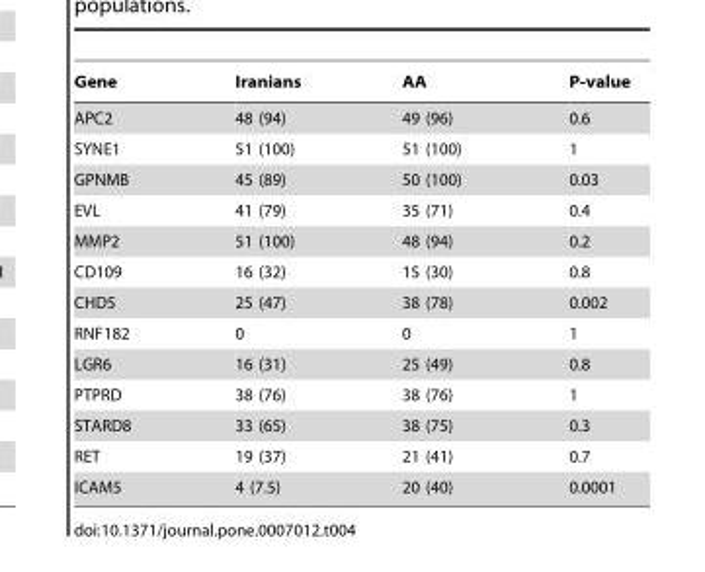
<table><thead><tr><td>Gene</td><td>Iranians</td><td>AA</td><td>P-value</td></tr></thead><tbody><tr><td>APC2</td><td>48 (94)</td><td>49 (96)</td><td>0.6</td></tr><tr><td>SYNE1</td><td>51 (100)</td><td>51 (100)</td><td>1</td></tr><tr><td>GPNMB</td><td>45 (89)</td><td>50 (100)</td><td>0.03</td></tr><tr><td>EVL</td><td>41 (79)</td><td>35 (71)</td><td>0.4</td></tr><tr><td>MMP2</td><td>51 (100)</td><td>48 (94)</td><td>0.2</td></tr><tr><td>CD109</td><td>16 (32)</td><td>15 (30)</td><td>0.8</td></tr><tr><td>CHD5</td><td>25 (47)</td><td>38 (78)</td><td>0.002</td></tr><tr><td>RNF182</td><td>0</td><td>0</td><td>1</td></tr><tr><td>LGR6</td><td>16 (31)</td><td>25 (49)</td><td>0.8</td></tr><tr><td>PTPRD</td><td>38 (76)</td><td>38 (76)</td><td>1</td></tr><tr><td>STARD8</td><td>33 (65)</td><td>38 (75)</td><td>0.3</td></tr><tr><td>RET</td><td>19 (37)</td><td>21 (41)</td><td>0.7</td></tr><tr><td>ICAM5</td><td>4 (7.5)</td><td>20 (40)</td><td>0.0001</td></tr></tbody></table>